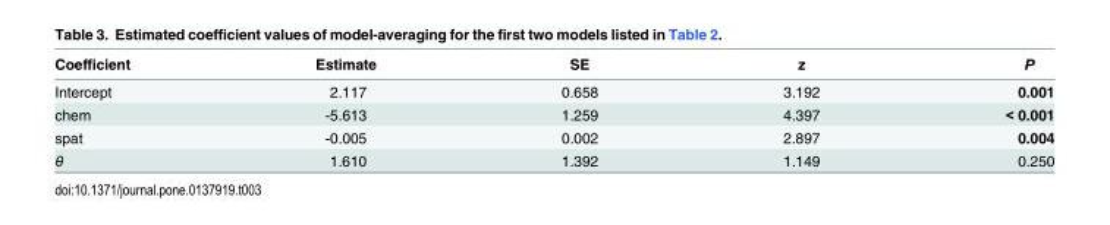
<table><thead><tr><td>Coefficient</td><td>Estimate</td><td>SE</td><td>z</td><td>P</td></tr></thead><tbody><tr><td>Intercept</td><td>2.117</td><td>0.658</td><td>3.192</td><td>0.001</td></tr><tr><td>chem</td><td>-5.613</td><td>1.259</td><td>4.397</td><td>&lt; 0.001</td></tr><tr><td>spat</td><td>-0.005</td><td>0.002</td><td>2.897</td><td>0.004</td></tr><tr><td>θ</td><td>1.610</td><td>1.392</td><td>1.149</td><td>0.250</td></tr></tbody></table>